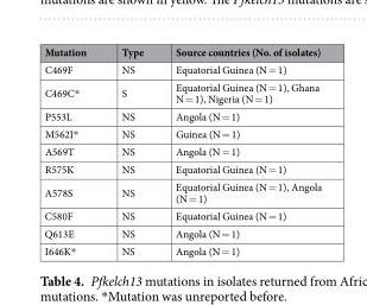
<table><thead><tr><td>Mutation</td><td>Type</td><td>Source countries (No. of isolates)</td></tr></thead><tbody><tr><td>C469F</td><td>NS</td><td>Equatorial Guinea (N = 1)</td></tr><tr><td>C469C*</td><td>S</td><td>Equatorial Guinea (N = 1), Ghana N = 1), Nigeria (N = 1)</td></tr><tr><td>P553L</td><td>NS</td><td>Angola (N = 1)</td></tr><tr><td>M562I*</td><td>NS</td><td>Guinea (N = 1)</td></tr><tr><td>A569T</td><td>NS</td><td>Angola (N = 1)</td></tr><tr><td>R575K</td><td>NS</td><td>Equatorial Guinea (N = 1)</td></tr><tr><td>A578S</td><td>NS</td><td>Equatorial Guinea (N = 1), Angola (N = 1)</td></tr><tr><td>C580F</td><td>NS</td><td>Equatorial Guinea (N = 1)</td></tr><tr><td>Q613E</td><td>NS</td><td>Angola (N = 1)</td></tr><tr><td>I646K*</td><td>NS</td><td>Angola (N = 1)</td></tr></tbody></table>